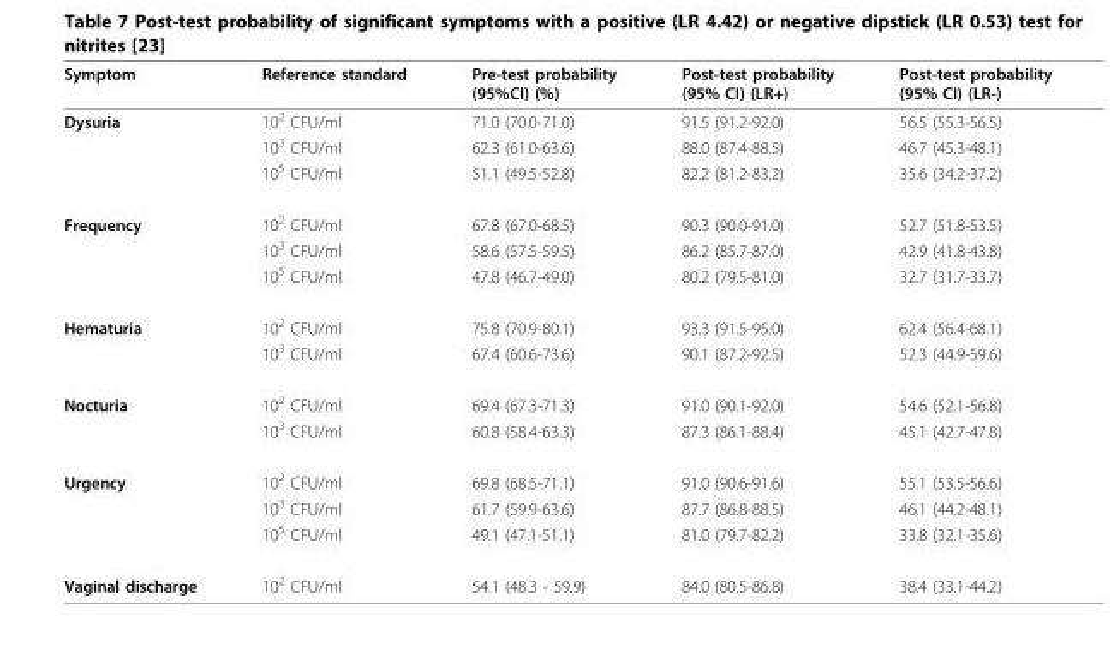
<table><thead><tr><td>Symptom</td><td>Reference standard</td><td>Pre-test probability (95%CI) (%)</td><td>Post-test probability (95% CI) (LR+)</td><td>Post-test probability (95% CI) (LR-)</td></tr></thead><tbody><tr><td rowspan="3">Dysuria</td><td>10<sup>2</sup> CFU/ml</td><td>71.0 (70.0-71.0)</td><td>91.5 (91.2-92.0)</td><td>56.5 (55.3-56.5)</td></tr><tr><td>10<sup>3</sup> CFU/ml</td><td>62.3 (61.0-63.6)</td><td>88.0 (87.4-88.5)</td><td>46.7 (45.3-48.1)</td></tr><tr><td>10<sup>5</sup> CFU/ml</td><td>51.1 (49.5-52.8)</td><td>82.2 (81.2-83.2)</td><td>35.6 (34.2-37.2)</td></tr><tr><td rowspan="3">Frequency</td><td>10<sup>2</sup> CFU/ml</td><td>67.8 (67.0-68.5)</td><td>90.3 (90.0-91.0)</td><td>52.7 (51.8-53.5)</td></tr><tr><td>10<sup>3</sup> CFU/ml</td><td>58.6 (57.5-59.5)</td><td>86.2 (85.7-87.0)</td><td>42.9 (41.8-43.8)</td></tr><tr><td>10<sup>5</sup> CFU/ml</td><td>47.8 (46.7-49.0)</td><td>80.2 (79.5-81.0)</td><td>32.7 (31.7-33.7)</td></tr><tr><td rowspan="2">Hematuria</td><td>10<sup>2</sup> CFU/ml</td><td>75.8 (70.9-80.1)</td><td>93.3 (91.5-95.0)</td><td>62.4 (56.4-68.1)</td></tr><tr><td>10<sup>3</sup> CFU/ml</td><td>67.4 (60.6-73.6)</td><td>90.1 (87.2-92.5)</td><td>52.3 (44.9-59.6)</td></tr><tr><td rowspan="2">Nocturia</td><td>10<sup>2</sup> CFU/ml</td><td>69.4 (67.3-71.3)</td><td>91.0 (90.1-92.0)</td><td>54.6 (52.1-56.8)</td></tr><tr><td>10<sup>3</sup> CFU/ml</td><td>60.8 (58.4-63.3)</td><td>87.3 (86.1-88.4)</td><td>45.1 (42.7-47.8)</td></tr><tr><td rowspan="3">Urgency</td><td>10<sup>2</sup> CFU/ml</td><td>69.8 (68.5-71.1)</td><td>91.0 (90.6-91.6)</td><td>55.1 (53.5-56.6)</td></tr><tr><td>10<sup>3</sup> CFU/ml</td><td>61.7 (59.9-63.6)</td><td>87.7 (86.8-88.5)</td><td>46.1 (44.2-48.1)</td></tr><tr><td>10<sup>5</sup> CFU/ml</td><td>49.1 (47.1-51.1)</td><td>81.0 (79.7-82.2)</td><td>33.8 (32.1-35.6)</td></tr><tr><td>Vaginal discharge</td><td>10<sup>2</sup> CFU/ml</td><td>54.1 (48.3 - 59.9)</td><td>84.0 (80.5-86.8)</td><td>38.4 (33.1-44.2)</td></tr></tbody></table>